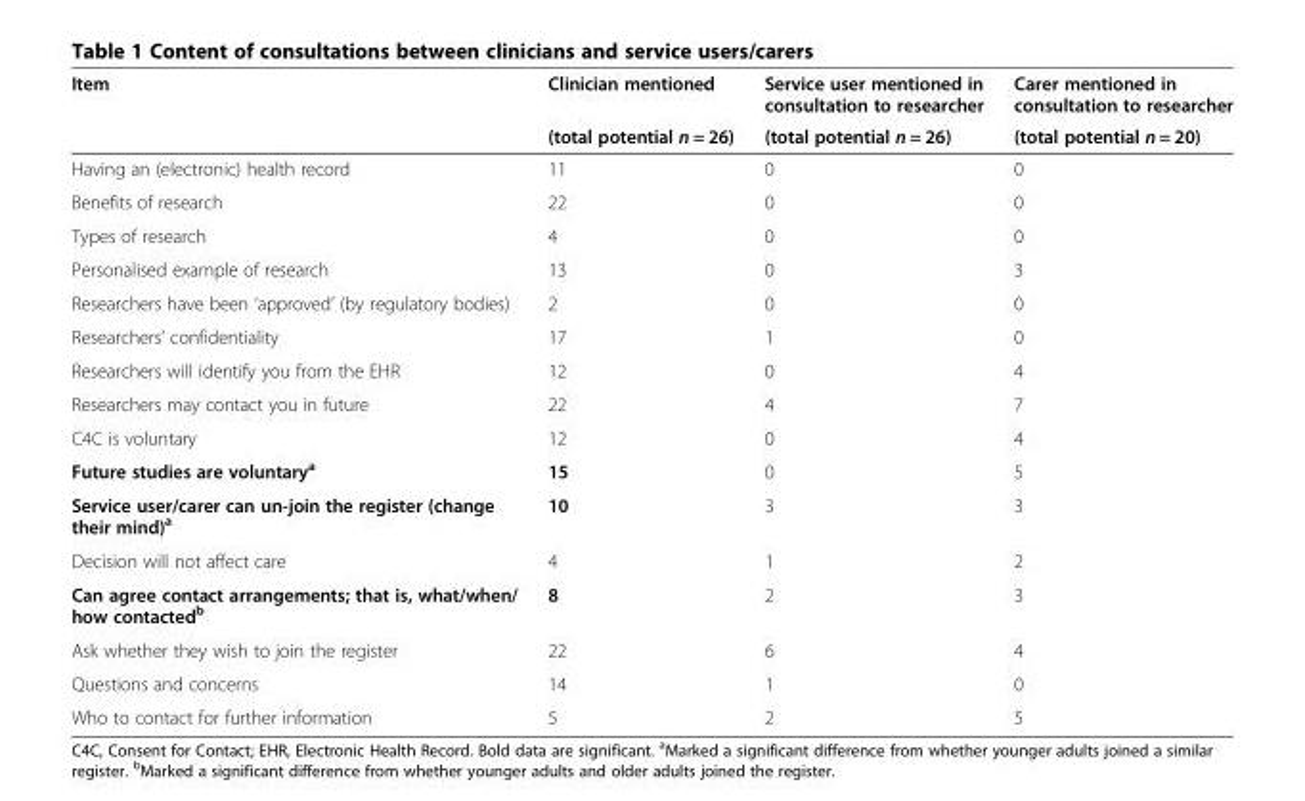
<table><thead><tr><td rowspan="2">Item</td><td rowspan="2">Clinician mentioned (total potential n = 26)</td><td rowspan="2">Service user mentioned in consultation to researcher (total potential n = 26)</td><td rowspan="2">Carer mentioned in consultation to researcher (total potential n = 20)</td></tr><tr></tr></thead><tbody><tr><td>Having an (electronic) health record</td><td>11</td><td>0</td><td>0</td></tr><tr><td>Benefits of research</td><td>22</td><td>0</td><td>0</td></tr><tr><td>Types of research</td><td>4</td><td>0</td><td>0</td></tr><tr><td>Personalised example of research</td><td>13</td><td>0</td><td>3</td></tr><tr><td>Researchers have been ‘approved’ (by regulatory bodies)</td><td>2</td><td>0</td><td>0</td></tr><tr><td>Researchers’ confidentiality</td><td>17</td><td>1</td><td>0</td></tr><tr><td>Researchers will identify you from the EHR</td><td>12</td><td>0</td><td>4</td></tr><tr><td>Researchers may contact you in future</td><td>22</td><td>4</td><td>7</td></tr><tr><td>C4C is voluntary</td><td>12</td><td>0</td><td>4</td></tr><tr><td>Future studies are voluntary<sup>a</sup></td><td>15</td><td>0</td><td>5</td></tr><tr><td>Service user/carer can un-join the register (change their mind)<sup>a</sup></td><td>10</td><td>3</td><td>3</td></tr><tr><td>Decision will not affect care</td><td>4</td><td>1</td><td>2</td></tr><tr><td>Can agree contact arrangements; that is, what/when/ how contacted<sup>b</sup></td><td>8</td><td>2</td><td>3</td></tr><tr><td>Ask whether they wish to join the register</td><td>22</td><td>6</td><td>4</td></tr><tr><td>Questions and concerns</td><td>14</td><td>1</td><td>0</td></tr><tr><td>Who to contact for further information</td><td>5</td><td>2</td><td>5</td></tr></tbody></table>